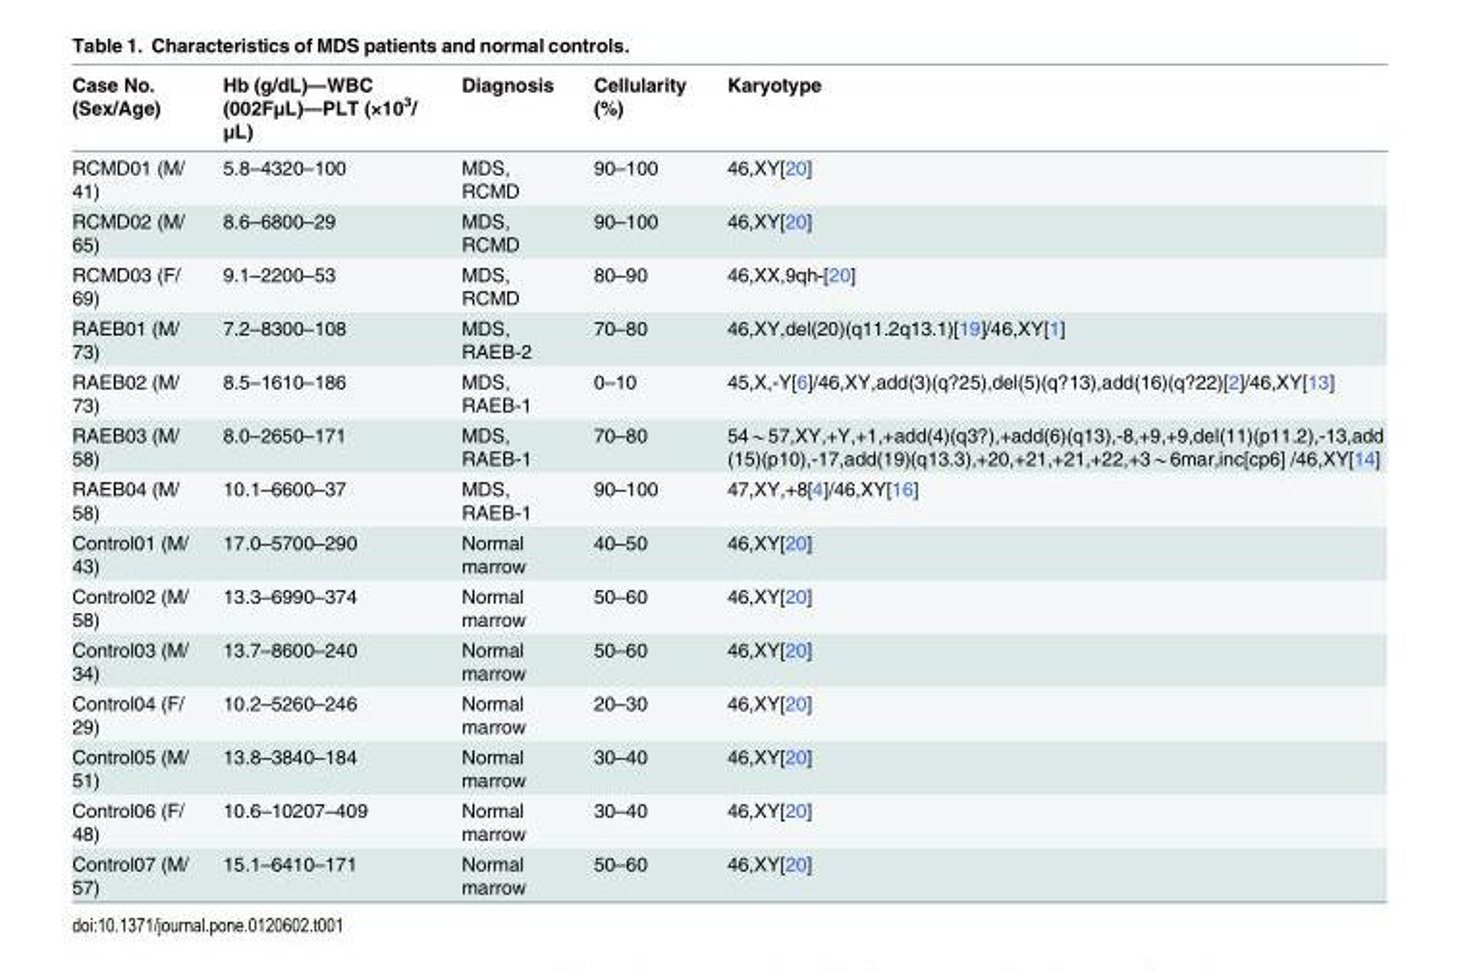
<table><thead><tr><td>Case No. (Sex/Age)</td><td>Hb (g/dL)—WBC (002FμL)—PLT (×10<sup>3</sup>/ μL)</td><td>Diagnosis</td><td>Cellularity (%)</td><td>Karyotype</td></tr></thead><tbody><tr><td>RCMD01 (M/ 41)</td><td>5.8–4320–100</td><td>MDS, RCMD</td><td>90–100</td><td>46,XY[20]</td></tr><tr><td>RCMD02 (M/ 65)</td><td>8.6–6800–29</td><td>MDS, RCMD</td><td>90–100</td><td>46,XY[20]</td></tr><tr><td>RCMD03 (F/ 69)</td><td>9.1–2200–53</td><td>MDS, RCMD</td><td>80–90</td><td>46,XX,9qh-[20]</td></tr><tr><td>RAEB01 (M/ 73)</td><td>7.2–8300–108</td><td>MDS, RAEB-2</td><td>70–80</td><td>46,XY,del(20)(q11.2q13.1)[19]/46,XY[1]</td></tr><tr><td>RAEB02 (M/ 73)</td><td>8.5–1610–186</td><td>MDS, RAEB-1</td><td>0–10</td><td>45,X,-Y[6]/46,XY,add(3)(q?25),del(5)(q?13),add(16)(q?22)[2]/46,XY[13]</td></tr><tr><td>RAEB03 (M/ 58)</td><td>8.0–2650–171</td><td>MDS, RAEB-1</td><td>70–80</td><td>54*57,XY,+Y,+1,+add(4)(q3?),+add(6)(q13),-8,+9,+9,del(11)(p11.2),-13,add (15)(p10),-17,add(19)(q13.3),+20,+21,+21,+22,+3*6mar,inc[cp6] /46,XY[14]</td></tr><tr><td>RAEB04 (M/ 58)</td><td>10.1–6600–37</td><td>MDS, RAEB-1</td><td>90–100</td><td>47,XY,+8[4]/46,XY[16]</td></tr><tr><td>Control01 (M/ 43)</td><td>17.0–5700–290</td><td>Normal marrow</td><td>40–50</td><td>46,XY[20]</td></tr><tr><td>Control02 (M/ 58)</td><td>13.3–6990–374</td><td>Normal marrow</td><td>50–60</td><td>46,XY[20]</td></tr><tr><td>Control03 (M/ 34)</td><td>13.7–8600–240</td><td>Normal marrow</td><td>50–60</td><td>46,XY[20]</td></tr><tr><td>Control04 (F/ 29)</td><td>10.2–5260–246</td><td>Normal marrow</td><td>20–30</td><td>46,XY[20]</td></tr><tr><td>Control05 (M/ 51)</td><td>13.8–3840–184</td><td>Normal marrow</td><td>30–40</td><td>46,XY[20]</td></tr><tr><td>Control06 (F/ 48)</td><td>10.6–10207–409</td><td>Normal marrow</td><td>30–40</td><td>46,XY[20]</td></tr><tr><td>Control07 (M/ 57)</td><td>15.1–6410–171</td><td>Normal marrow</td><td>50–60</td><td>46,XY[20]</td></tr></tbody></table>